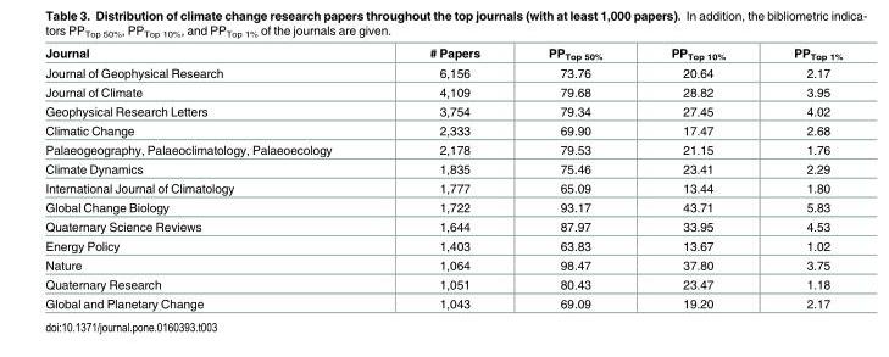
<table><thead><tr><td>Journal</td><td># Papers</td><td>PP<sub>Top 50%</sub></td><td>PP<sub>Top 10%</sub></td><td>PP<sub>Top 1%</sub></td></tr></thead><tbody><tr><td>Journal of Geophysical Research</td><td>6,156</td><td>73.76</td><td>20.64</td><td>2.17</td></tr><tr><td>Journal of Climate</td><td>4,109</td><td>79.68</td><td>28.82</td><td>3.95</td></tr><tr><td>Geophysical Research Letters</td><td>3,754</td><td>79.34</td><td>27.45</td><td>4.02</td></tr><tr><td>Climatic Change</td><td>2,333</td><td>69.90</td><td>17.47</td><td>2.68</td></tr><tr><td>Palaeogeography, Palaeoclimatology, Palaeoecology</td><td>2,178</td><td>79.53</td><td>21.15</td><td>1.76</td></tr><tr><td>Climate Dynamics</td><td>1,835</td><td>75.46</td><td>23.41</td><td>2.29</td></tr><tr><td>International Journal of Climatology</td><td>1,777</td><td>65.09</td><td>13.44</td><td>1.80</td></tr><tr><td>Global Change Biology</td><td>1,722</td><td>93.17</td><td>43.71</td><td>5.83</td></tr><tr><td>Quaternary Science Reviews</td><td>1,644</td><td>87.97</td><td>33.95</td><td>4.53</td></tr><tr><td>Energy Policy</td><td>1,403</td><td>63.83</td><td>13.67</td><td>1.02</td></tr><tr><td>Nature</td><td>1,064</td><td>98.47</td><td>37.80</td><td>3.75</td></tr><tr><td>Quaternary Research</td><td>1,051</td><td>80.43</td><td>23.47</td><td>1.18</td></tr><tr><td>Global and Planetary Change</td><td>1,043</td><td>69.09</td><td>19.20</td><td>2.17</td></tr></tbody></table>